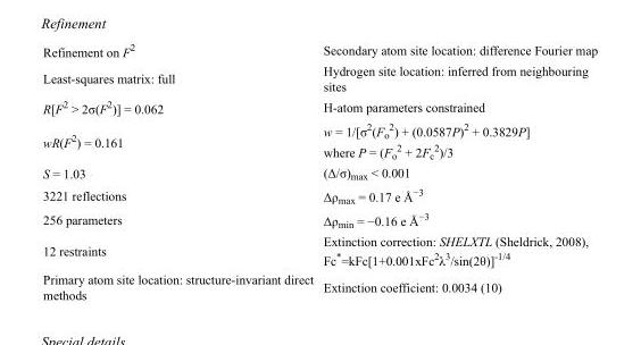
<table><tbody><tr><td>Refinement on F<sup>2</sup></td><td>Secondary atom site location: difference Fourier map</td></tr><tr><td>Least-squares matrix: full</td><td>Hydrogen site location: inferred from neighbouring sites</td></tr><tr><td>R[F<sup>2</sup> &gt; 2σ(F<sup>2</sup>)] = 0.062</td><td>H-atom parameters constrained</td></tr><tr><td>wR(F<sup>2</sup>) = 0.161</td><td>w = 1/[σ<sup>2</sup>(F<sub>o</sub> <sup>2</sup>) + (0.0587P)<sup>2</sup> + 0.3829P] where P = (F<sub>o</sub> <sup>2</sup> + 2F<sub>c</sub> <sup>2</sup>)/3</td></tr><tr><td>S = 1.03</td><td>(Δ/σ)<sub>max</sub> &lt; 0.001</td></tr><tr><td>3221 reflections</td><td>Δρ<sub>max</sub> = 0.17 e Å<sup>−3</sup></td></tr><tr><td>256 parameters</td><td>Δρ<sub>min</sub> = −0.16 e Å<sup>−3</sup></td></tr><tr><td>12 restraints</td><td>Extinction correction: SHELXTL (Sheldrick, 2008), Fc*=kFc[1+0.001xFc<sup>2</sup>λ<sup>3</sup>/sin(2θ)]<sup>-1/4</sup></td></tr><tr><td>Primary atom site location: structure-invariant direct methods</td><td>Extinction coefficient: 0.0034 (10)</td></tr></tbody></table>